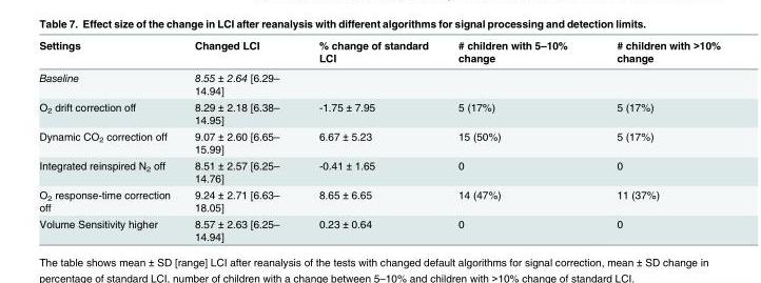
<table><thead><tr><td>Settings</td><td>Changed LCI</td><td>% change of standard LCI</td><td># children with 5–10% change</td><td># children with &gt;10% change</td></tr></thead><tbody><tr><td>Baseline</td><td>8.55 ± 2.64 [6.29– 14.94]</td><td></td><td></td><td></td></tr><tr><td>O<sub>2</sub> drift correction off</td><td>8.29 ± 2.18 [6.38– 14.95]</td><td>-1.75 ± 7.95</td><td>5 (17%)</td><td>5 (17%)</td></tr><tr><td>Dynamic CO<sub>2</sub> correction off</td><td>9.07 ± 2.60 [6.65– 15.99]</td><td>6.67 ± 5.23</td><td>15 (50%)</td><td>5 (17%)</td></tr><tr><td>Integrated reinspired N<sub>2</sub> off</td><td>8.51 ± 2.57 [6.25– 14.76]</td><td>-0.41 ± 1.65</td><td>0</td><td>0</td></tr><tr><td>O<sub>2</sub> response-time correction off</td><td>9.24 ± 2.71 [6.63– 18.05]</td><td>8.65 ± 6.65</td><td>14 (47%)</td><td>11 (37%)</td></tr><tr><td>Volume Sensitivity higher</td><td>8.57 ± 2.63 [6.25– 14.94]</td><td>0.23 ± 0.64</td><td>0</td><td>0</td></tr></tbody></table>